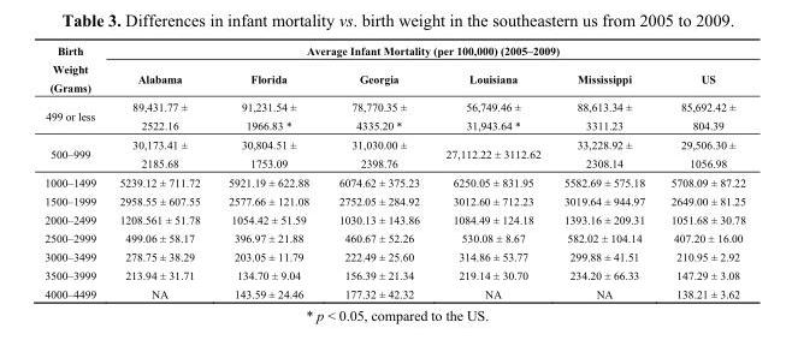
<table><thead><tr><td rowspan="2">Birth Weight (Grams)</td><td colspan="6">Average Infant Mortality (per 100,000) (2005–2009)</td></tr><tr><td>Alabama</td><td>Florida</td><td>Georgia</td><td>Louisiana</td><td>Mississippi</td><td>US</td></tr></thead><tbody><tr><td>499 or less</td><td>89,431.77 ± 2522.16</td><td>91,231.54 ± 1966.83 *</td><td>78,770.35 ± 4335.20 *</td><td>56,749.46 ± 31,943.64 *</td><td>88,613.34 ± 3311.23</td><td>85,692.42 ± 804.39</td></tr><tr><td>500–999</td><td>30,173.41 ± 2185.68</td><td>30,804.51 ± 1753.09</td><td>31,030.00 ± 2398.76</td><td>27,112.22 ± 3112.62</td><td>33,228.92 ± 2308.14</td><td>29,506.30 ± 1056.98</td></tr><tr><td>1000–1499</td><td>5239.12 ± 711.72</td><td>5921.19 ± 622.88</td><td>6074.62 ± 375.23</td><td>6250.05 ± 831.95</td><td>5582.69 ± 575.18</td><td>5708.09 ± 87.22</td></tr><tr><td>1500–1999</td><td>2958.55 ± 607.55</td><td>2577.66 ± 121.08</td><td>2752.05 ± 284.92</td><td>3012.60 ± 712.23</td><td>3019.64 ± 944.97</td><td>2649.00 ± 81.25</td></tr><tr><td>2000–2499</td><td>1208.561 ± 51.78</td><td>1054.42 ± 51.59</td><td>1030.13 ± 143.86</td><td>1084.49 ± 124.18</td><td>1393.16 ± 209.31</td><td>1051.68 ± 30.78</td></tr><tr><td>2500–2999</td><td>499.06 ± 58.17</td><td>396.97 ± 21.88</td><td>460.67 ± 52.26</td><td>530.08 ± 8.67</td><td>582.02 ± 104.14</td><td>407.20 ± 16.00</td></tr><tr><td>3000–3499</td><td>278.75 ± 38.29</td><td>203.05 ± 11.79</td><td>222.49 ± 25.60</td><td>314.86 ± 53.77</td><td>299.88 ± 41.51</td><td>210.95 ± 2.92</td></tr><tr><td>3500–3999</td><td>213.94 ± 31.71</td><td>134.70 ± 9.04</td><td>156.39 ± 21.34</td><td>219.14 ± 30.70</td><td>234.20 ± 66.33</td><td>147.29 ± 3.08</td></tr><tr><td>4000–4499</td><td>NA</td><td>143.59 ± 24.46</td><td>177.32 ± 42.32</td><td>NA</td><td>NA</td><td>138.21 ± 3.62</td></tr></tbody></table>